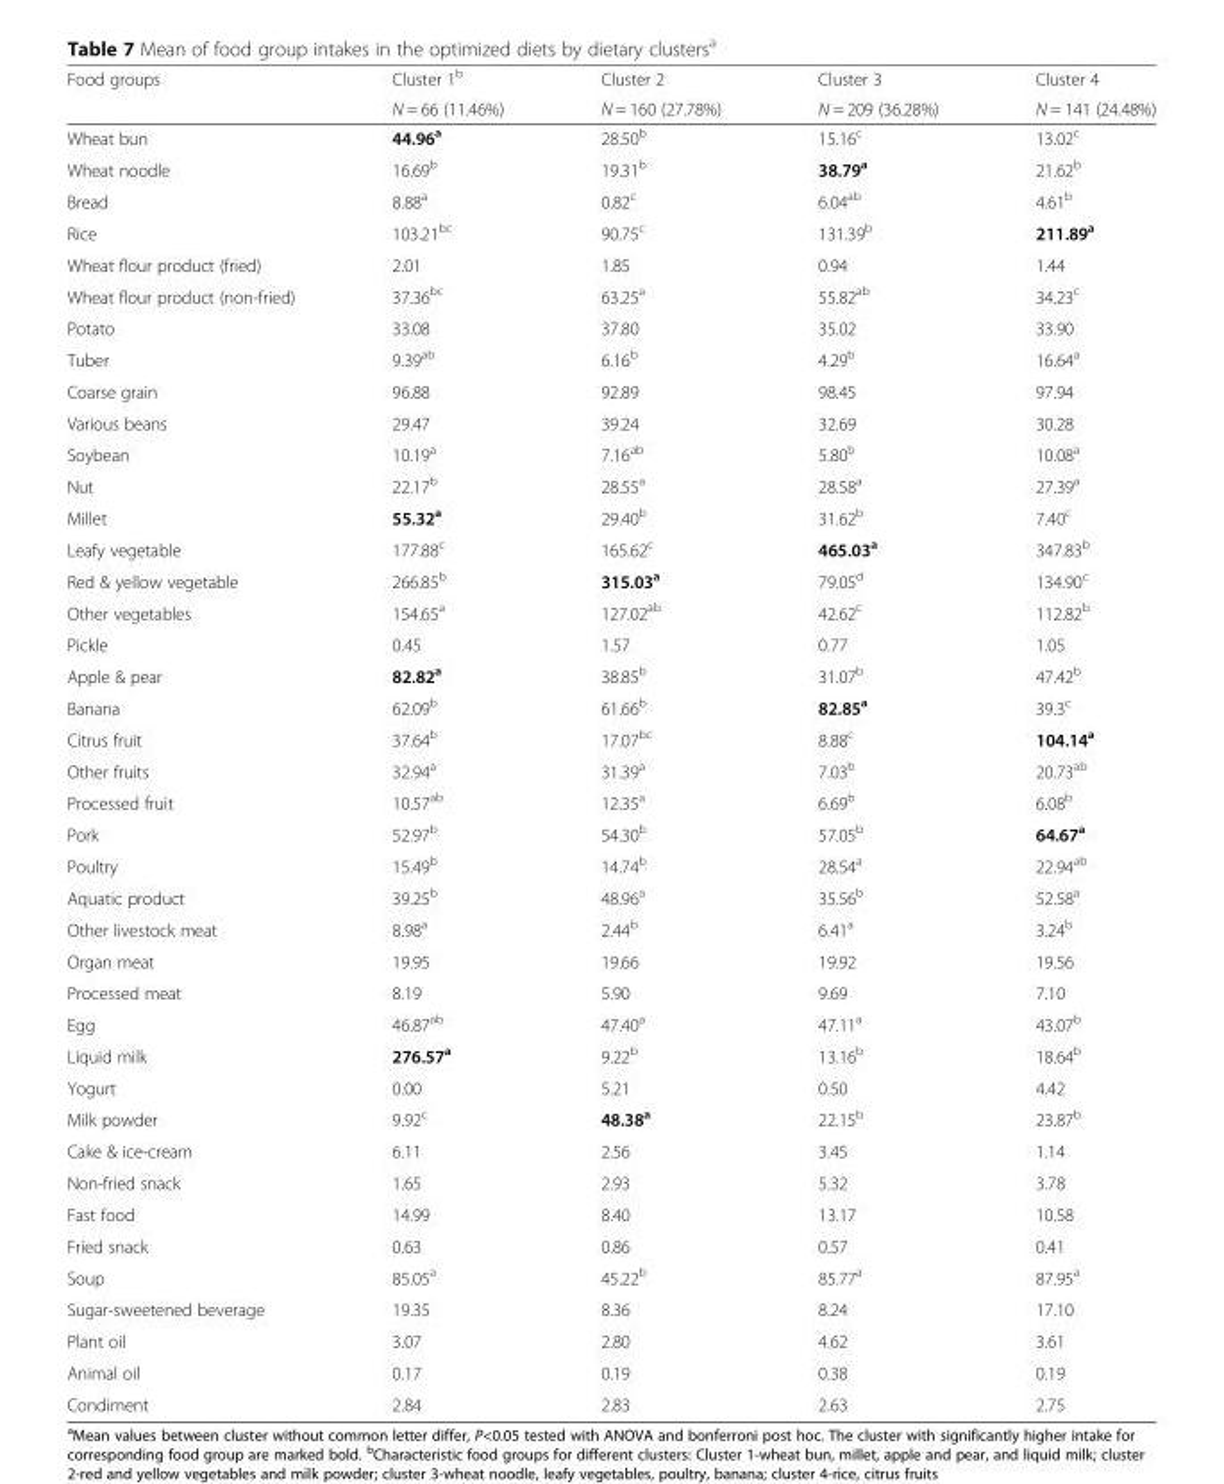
<table><thead><tr><td rowspan="2">Food groups</td><td rowspan="2">Cluster 1<sup>b</sup> N = 66 (11.46%)</td><td rowspan="2">Cluster 2 N = 160 (27.78%)</td><td rowspan="2">Cluster 3 N = 209 (36.28%)</td><td rowspan="2">Cluster 4 N = 141 (24.48%)</td></tr><tr></tr></thead><tbody><tr><td>Wheat bun</td><td>44.96<sup>a</sup></td><td>28.50<sup>b</sup></td><td>15.16<sup>c</sup></td><td>13.02<sup>c</sup></td></tr><tr><td>Wheat noodle</td><td>16.69<sup>b</sup></td><td>19.31<sup>b</sup></td><td>38.79<sup>a</sup></td><td>21.62<sup>b</sup></td></tr><tr><td>Bread</td><td>8.88<sup>a</sup></td><td>0.82<sup>c</sup></td><td>6.04<sup>ab</sup></td><td>4.61<sup>b</sup></td></tr><tr><td>Rice</td><td>103.21<sup>bc</sup></td><td>90.75<sup>c</sup></td><td>131.39<sup>b</sup></td><td>211.89<sup>a</sup></td></tr><tr><td>Wheat flour product (fried)</td><td>2.01</td><td>1.85</td><td>0.94</td><td>1.44</td></tr><tr><td>Wheat flour product (non-fried)</td><td>37.36<sup>bc</sup></td><td>63.25<sup>a</sup></td><td>55.82<sup>ab</sup></td><td>34.23<sup>c</sup></td></tr><tr><td>Potato</td><td>33.08</td><td>37.80</td><td>35.02</td><td>33.90</td></tr><tr><td>Tuber</td><td>9.39<sup>ab</sup></td><td>6.16<sup>b</sup></td><td>4.29<sup>b</sup></td><td>16.64<sup>a</sup></td></tr><tr><td>Coarse grain</td><td>96.88</td><td>92.89</td><td>98.45</td><td>97.94</td></tr><tr><td>Various beans</td><td>29.47</td><td>39.24</td><td>32.69</td><td>30.28</td></tr><tr><td>Soybean</td><td>10.19<sup>a</sup></td><td>7.16<sup>ab</sup></td><td>5.80<sup>b</sup></td><td>10.08<sup>a</sup></td></tr><tr><td>Nut</td><td>22.17<sup>b</sup></td><td>28.55<sup>a</sup></td><td>28.58<sup>a</sup></td><td>27.39<sup>a</sup></td></tr><tr><td>Millet</td><td>55.32<sup>a</sup></td><td>29.40<sup>b</sup></td><td>31.62<sup>b</sup></td><td>7.40<sup>c</sup></td></tr><tr><td>Leafy vegetable</td><td>177.88<sup>c</sup></td><td>165.62<sup>c</sup></td><td>465.03<sup>a</sup></td><td>347.83<sup>b</sup></td></tr><tr><td>Red &amp; yellow vegetable</td><td>266.85<sup>b</sup></td><td>315.03<sup>a</sup></td><td>79.05<sup>d</sup></td><td>134.90<sup>c</sup></td></tr><tr><td>Other vegetables</td><td>154.65<sup>a</sup></td><td>127.02<sup>ab</sup></td><td>42.62<sup>c</sup></td><td>112.82<sup>b</sup></td></tr><tr><td>Pickle</td><td>0.45</td><td>1.57</td><td>0.77</td><td>1.05</td></tr><tr><td>Apple &amp; pear</td><td>82.82<sup>a</sup></td><td>38.85<sup>b</sup></td><td>31.07<sup>b</sup></td><td>47.42<sup>b</sup></td></tr><tr><td>Banana</td><td>62.09<sup>b</sup></td><td>61.66<sup>b</sup></td><td>82.85<sup>a</sup></td><td>39.3<sup>c</sup></td></tr><tr><td>Citrus fruit</td><td>37.64<sup>b</sup></td><td>17.07<sup>bc</sup></td><td>8.88<sup>c</sup></td><td>104.14<sup>a</sup></td></tr><tr><td>Other fruits</td><td>32.94<sup>a</sup></td><td>31.39<sup>a</sup></td><td>7.03<sup>b</sup></td><td>20.73<sup>ab</sup></td></tr><tr><td>Processed fruit</td><td>10.57<sup>ab</sup></td><td>12.35<sup>a</sup></td><td>6.69<sup>b</sup></td><td>6.08<sup>b</sup></td></tr><tr><td>Pork</td><td>52.97<sup>b</sup></td><td>54.30<sup>b</sup></td><td>57.05<sup>b</sup></td><td>64.67<sup>a</sup></td></tr><tr><td>Poultry</td><td>15.49<sup>b</sup></td><td>14.74<sup>b</sup></td><td>28.54<sup>a</sup></td><td>22.94<sup>ab</sup></td></tr><tr><td>Aquatic product</td><td>39.25<sup>b</sup></td><td>48.96<sup>a</sup></td><td>35.56<sup>b</sup></td><td>52.58<sup>a</sup></td></tr><tr><td>Other livestock meat</td><td>8.98<sup>a</sup></td><td>2.44<sup>b</sup></td><td>6.41<sup>a</sup></td><td>3.24<sup>b</sup></td></tr><tr><td>Organ meat</td><td>19.95</td><td>19.66</td><td>19.92</td><td>19.56</td></tr><tr><td>Processed meat</td><td>8.19</td><td>5.90</td><td>9.69</td><td>7.10</td></tr><tr><td>Egg</td><td>46.87<sup>ab</sup></td><td>47.40<sup>a</sup></td><td>47.11<sup>a</sup></td><td>43.07<sup>b</sup></td></tr><tr><td>Liquid milk</td><td>276.57<sup>a</sup></td><td>9.22<sup>b</sup></td><td>13.16<sup>b</sup></td><td>18.64<sup>b</sup></td></tr><tr><td>Yogurt</td><td>0.00</td><td>5.21</td><td>0.50</td><td>4.42</td></tr><tr><td>Milk powder</td><td>9.92<sup>c</sup></td><td>48.38<sup>a</sup></td><td>22.15<sup>b</sup></td><td>23.87<sup>b</sup></td></tr><tr><td>Cake &amp; ice-cream</td><td>6.11</td><td>2.56</td><td>3.45</td><td>1.14</td></tr><tr><td>Non-fried snack</td><td>1.65</td><td>2.93</td><td>5.32</td><td>3.78</td></tr><tr><td>Fast food</td><td>14.99</td><td>8.40</td><td>13.17</td><td>10.58</td></tr><tr><td>Fried snack</td><td>0.63</td><td>0.86</td><td>0.57</td><td>0.41</td></tr><tr><td>Soup</td><td>85.05<sup>a</sup></td><td>45.22<sup>b</sup></td><td>85.77<sup>a</sup></td><td>87.95<sup>a</sup></td></tr><tr><td>Sugar-sweetened beverage</td><td>19.35</td><td>8.36</td><td>8.24</td><td>17.10</td></tr><tr><td>Plant oil</td><td>3.07</td><td>2.80</td><td>4.62</td><td>3.61</td></tr><tr><td>Animal oil</td><td>0.17</td><td>0.19</td><td>0.38</td><td>0.19</td></tr><tr><td>Condiment</td><td>2.84</td><td>2.83</td><td>2.63</td><td>2.75</td></tr></tbody></table>